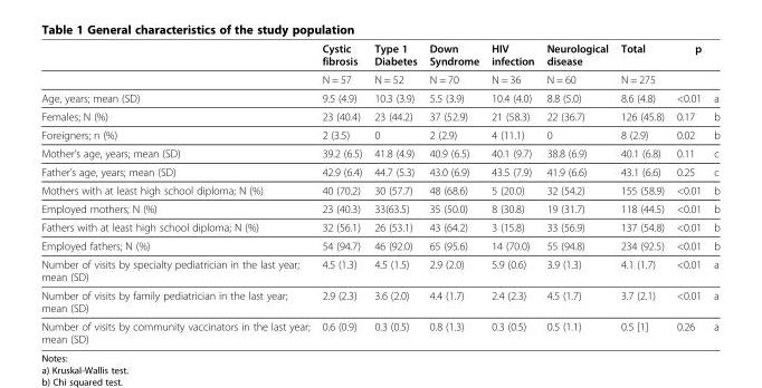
<table><thead><tr><td></td><td>Cystic fibrosis</td><td>Type 1 Diabetes</td><td>Down Syndrome</td><td>HIV infection</td><td>Neurological disease</td><td>Total</td><td>p</td><td></td></tr></thead><tbody><tr><td></td><td>N = 57</td><td>N = 52</td><td>N = 70</td><td>N = 36</td><td>N = 60</td><td>N = 275</td><td></td><td></td></tr><tr><td>Age, years; mean (SD)</td><td>9.5 (4.9)</td><td>10.3 (3.9)</td><td>5.5 (3.9)</td><td>10.4 (4.0)</td><td>8.8 (5.0)</td><td>8.6 (4.8)</td><td>&lt;0.01</td><td>a</td></tr><tr><td>Females; N (%)</td><td>23 (40.4)</td><td>23 (44.2)</td><td>37 (52.9)</td><td>21 (58.3)</td><td>22 (36.7)</td><td>126 (45.8)</td><td>0.17</td><td>b</td></tr><tr><td>Foreigners; n (%)</td><td>2 (3.5)</td><td>0</td><td>2 (2.9)</td><td>4 (11.1)</td><td>0</td><td>8 (2.9)</td><td>0.02</td><td>b</td></tr><tr><td>Mother’s age, years; mean (SD)</td><td>39.2 (6.5)</td><td>41.8 (4.9)</td><td>40.9 (6.5)</td><td>40.1 (9.7)</td><td>38.8 (6.9)</td><td>40.1 (6.8)</td><td>0.11</td><td>c</td></tr><tr><td>Father’s age, years; mean (SD)</td><td>42.9 (6.4)</td><td>44.7 (5.3)</td><td>43.0 (6.9)</td><td>43.5 (7.9)</td><td>41.9 (6.6)</td><td>43.1 (6.6)</td><td>0.25</td><td>c</td></tr><tr><td>Mothers with at least high school diploma; N (%)</td><td>40 (70.2)</td><td>30 (57.7)</td><td>48 (68.6)</td><td>5 (20.0)</td><td>32 (54.2)</td><td>155 (58.9)</td><td>&lt;0.01</td><td>b</td></tr><tr><td>Employed mothers; N (%)</td><td>23 (40.3)</td><td>33(63.5)</td><td>35 (50.0)</td><td>8 (30.8)</td><td>19 (31.7)</td><td>118 (44.5)</td><td>&lt;0.01</td><td>b</td></tr><tr><td>Fathers with at least high school diploma; N (%)</td><td>32 (56.1)</td><td>26 (53.1)</td><td>43 (64.2)</td><td>3 (15.8)</td><td>33 (56.9)</td><td>137 (54.8)</td><td>&lt;0.01</td><td>b</td></tr><tr><td>Employed fathers; N (%)</td><td>54 (94.7)</td><td>46 (92.0)</td><td>65 (95.6)</td><td>14 (70.0)</td><td>55 (94.8)</td><td>234 (92.5)</td><td>&lt;0.01</td><td>b</td></tr><tr><td>Number of visits by specialty pediatrician in the last year; mean (SD)</td><td>4.5 (1.3)</td><td>4.5 (1.5)</td><td>2.9 (2.0)</td><td>5.9 (0.6)</td><td>3.9 (1.3)</td><td>4.1 (1.7)</td><td>&lt;0.01</td><td>a</td></tr><tr><td>Number of visits by family pediatrician in the last year; mean (SD)</td><td>2.9 (2.3)</td><td>3.6 (2.0)</td><td>4.4 (1.7)</td><td>2.4 (2.3)</td><td>4.5 (1.7)</td><td>3.7 (2.1)</td><td>&lt;0.01</td><td>a</td></tr><tr><td>Number of visits by community vaccinators in the last year; mean (SD)</td><td>0.6 (0.9)</td><td>0.3 (0.5)</td><td>0.8 (1.3)</td><td>0.3 (0.5)</td><td>0.5 (1.1)</td><td>0.5 [1]</td><td>0.26</td><td>a</td></tr></tbody></table>